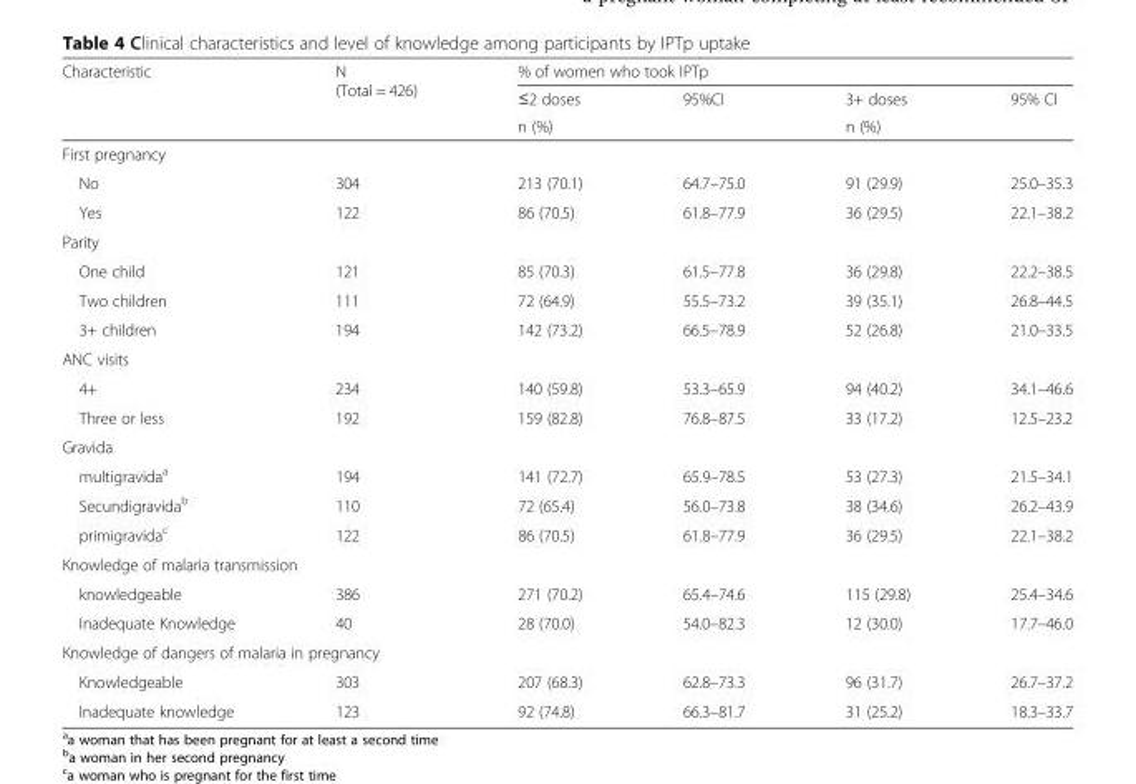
<table><thead><tr><td rowspan="3">Characteristic</td><td rowspan="3">N (Total = 426)</td><td colspan="4">% of women who took IPTp</td></tr><tr><td rowspan="2">≤2 doses n (%)</td><td rowspan="2">95%CI</td><td rowspan="2">3+ doses n (%)</td><td rowspan="2">95% CI</td></tr><tr></tr></thead><tbody><tr><td colspan="6">First pregnancy</td></tr><tr><td>No</td><td>304</td><td>213 (70.1)</td><td>64.7–75.0</td><td>91 (29.9)</td><td>25.0–35.3</td></tr><tr><td>Yes</td><td>122</td><td>86 (70.5)</td><td>61.8–77.9</td><td>36 (29.5)</td><td>22.1–38.2</td></tr><tr><td colspan="6">Parity</td></tr><tr><td>One child</td><td>121</td><td>85 (70.3)</td><td>61.5–77.8</td><td>36 (29.8)</td><td>22.2–38.5</td></tr><tr><td>Two children</td><td>111</td><td>72 (64.9)</td><td>55.5–73.2</td><td>39 (35.1)</td><td>26.8–44.5</td></tr><tr><td>3+ children</td><td>194</td><td>142 (73.2)</td><td>66.5–78.9</td><td>52 (26.8)</td><td>21.0–33.5</td></tr><tr><td colspan="6">ANC visits</td></tr><tr><td>4+</td><td>234</td><td>140 (59.8)</td><td>53.3–65.9</td><td>94 (40.2)</td><td>34.1–46.6</td></tr><tr><td>Three or less</td><td>192</td><td>159 (82.8)</td><td>76.8–87.5</td><td>33 (17.2)</td><td>12.5–23.2</td></tr><tr><td colspan="6">Gravida</td></tr><tr><td>multigravida<sup>a</sup></td><td>194</td><td>141 (72.7)</td><td>65.9–78.5</td><td>53 (27.3)</td><td>21.5–34.1</td></tr><tr><td>Secundigravida<sup>b</sup></td><td>110</td><td>72 (65.4)</td><td>56.0–73.8</td><td>38 (34.6)</td><td>26.2–43.9</td></tr><tr><td>primigravida<sup>c</sup></td><td>122</td><td>86 (70.5)</td><td>61.8–77.9</td><td>36 (29.5)</td><td>22.1–38.2</td></tr><tr><td colspan="6">Knowledge of malaria transmission</td></tr><tr><td>knowledgeable</td><td>386</td><td>271 (70.2)</td><td>65.4–74.6</td><td>115 (29.8)</td><td>25.4–34.6</td></tr><tr><td>Inadequate Knowledge</td><td>40</td><td>28 (70.0)</td><td>54.0–82.3</td><td>12 (30.0)</td><td>17.7–46.0</td></tr><tr><td colspan="6">Knowledge of dangers of malaria in pregnancy</td></tr><tr><td>Knowledgeable</td><td>303</td><td>207 (68.3)</td><td>62.8–73.3</td><td>96 (31.7)</td><td>26.7–37.2</td></tr><tr><td>Inadequate knowledge</td><td>123</td><td>92 (74.8)</td><td>66.3–81.7</td><td>31 (25.2)</td><td>18.3–33.7</td></tr></tbody></table>